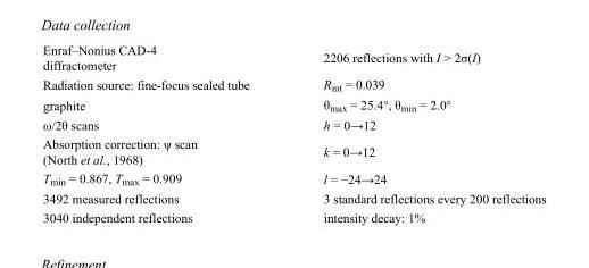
<table><tbody><tr><td>Enraf–Nonius CAD-4 diffractometer</td><td>2206 reflections with I &gt; 2σ(I)</td></tr><tr><td>Radiation source: fine-focus sealed tube</td><td>R<sub>int</sub> = 0.039</td></tr><tr><td>graphite</td><td>θ<sub>max</sub> = 25.4°, θ<sub>min</sub> = 2.0°</td></tr><tr><td>ω/2θ scans</td><td>h = 0→12</td></tr><tr><td>Absorption correction: ψ scan (North et al., 1968)</td><td>k = 0→12</td></tr><tr><td>T<sub>min</sub> = 0.867, T<sub>max</sub> = 0.909</td><td>l = −24→24</td></tr><tr><td>3492 measured reflections</td><td>3 standard reflections every 200 reflections</td></tr><tr><td>3040 independent reflections</td><td>intensity decay: 1%</td></tr></tbody></table>